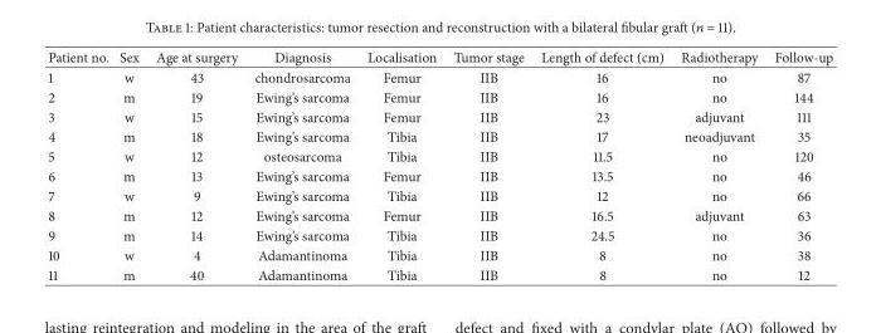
<table><thead><tr><td>Patient no.</td><td>Sex</td><td>Age at surgery</td><td>Diagnosis</td><td>Localisation</td><td>Tumor stage</td><td>Length of defect (cm)</td><td>Radiotherapy</td><td>Follow-up</td></tr></thead><tbody><tr><td>1</td><td>w</td><td>43</td><td>chondrosarcoma</td><td>Femur</td><td>IIB</td><td>16</td><td>no</td><td>87</td></tr><tr><td>2</td><td>m</td><td>19</td><td>Ewing’s sarcoma</td><td>Femur</td><td>IIB</td><td>16</td><td>no</td><td>144</td></tr><tr><td>3</td><td>w</td><td>15</td><td>Ewing’s sarcoma</td><td>Femur</td><td>IIB</td><td>23</td><td>adjuvant</td><td>111</td></tr><tr><td>4</td><td>m</td><td>18</td><td>Ewing’s sarcoma</td><td>Tibia</td><td>IIB</td><td>17</td><td>neoadjuvant</td><td>35</td></tr><tr><td>5</td><td>w</td><td>12</td><td>osteosarcoma</td><td>Tibia</td><td>IIB</td><td>11.5</td><td>no</td><td>120</td></tr><tr><td>6</td><td>m</td><td>13</td><td>Ewing’s sarcoma</td><td>Femur</td><td>IIB</td><td>13.5</td><td>no</td><td>46</td></tr><tr><td>7</td><td>w</td><td>9</td><td>Ewing’s sarcoma</td><td>Tibia</td><td>IIB</td><td>12</td><td>no</td><td>66</td></tr><tr><td>8</td><td>m</td><td>12</td><td>Ewing’s sarcoma</td><td>Femur</td><td>IIB</td><td>16.5</td><td>adjuvant</td><td>63</td></tr><tr><td>9</td><td>m</td><td>14</td><td>Ewing’s sarcoma</td><td>Tibia</td><td>IIB</td><td>24.5</td><td>no</td><td>36</td></tr><tr><td>10</td><td>w</td><td>4</td><td>Adamantinoma</td><td>Tibia</td><td>IIB</td><td>8</td><td>no</td><td>38</td></tr><tr><td>11</td><td>m</td><td>40</td><td>Adamantinoma</td><td>Tibia</td><td>IIB</td><td>8</td><td>no</td><td>12</td></tr></tbody></table>